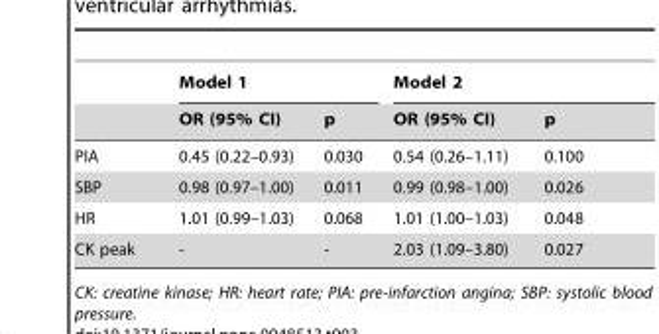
<table><thead><tr><td rowspan="2"></td><td colspan="2">Model 1</td><td colspan="2">Model 2</td></tr><tr><td>OR (95% CI)</td><td>p</td><td>OR (95% CI)</td><td>p</td></tr></thead><tbody><tr><td>PIA</td><td>0.45 (0.22–0.93)</td><td>0.030</td><td>0.54 (0.26–1.11)</td><td>0.100</td></tr><tr><td>SBP</td><td>0.98 (0.97–1.00)</td><td>0.011</td><td>0.99 (0.98–1.00)</td><td>0.026</td></tr><tr><td>HR</td><td>1.01 (0.99–1.03)</td><td>0.068</td><td>1.01 (1.00–1.03)</td><td>0.048</td></tr><tr><td>CK peak</td><td>-</td><td>-</td><td>2.03 (1.09–3.80)</td><td>0.027</td></tr></tbody></table>